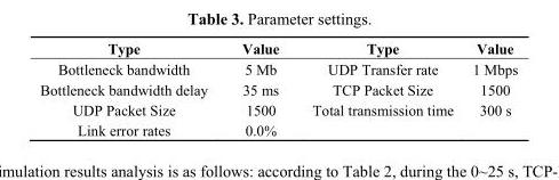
<table><thead><tr><td>Type</td><td>Value</td><td>Type</td><td>Value</td></tr></thead><tbody><tr><td>Bottleneck bandwidth</td><td>5 Mb</td><td>UDP Transfer rate</td><td>1 Mbps</td></tr><tr><td>Bottleneck bandwidth delay</td><td>35 ms</td><td>TCP Packet Size</td><td>1500</td></tr><tr><td>UDP Packet Size</td><td>1500</td><td>Total transmission time</td><td>300 s</td></tr><tr><td>Link error rates</td><td>0.0%</td><td></td><td></td></tr></tbody></table>